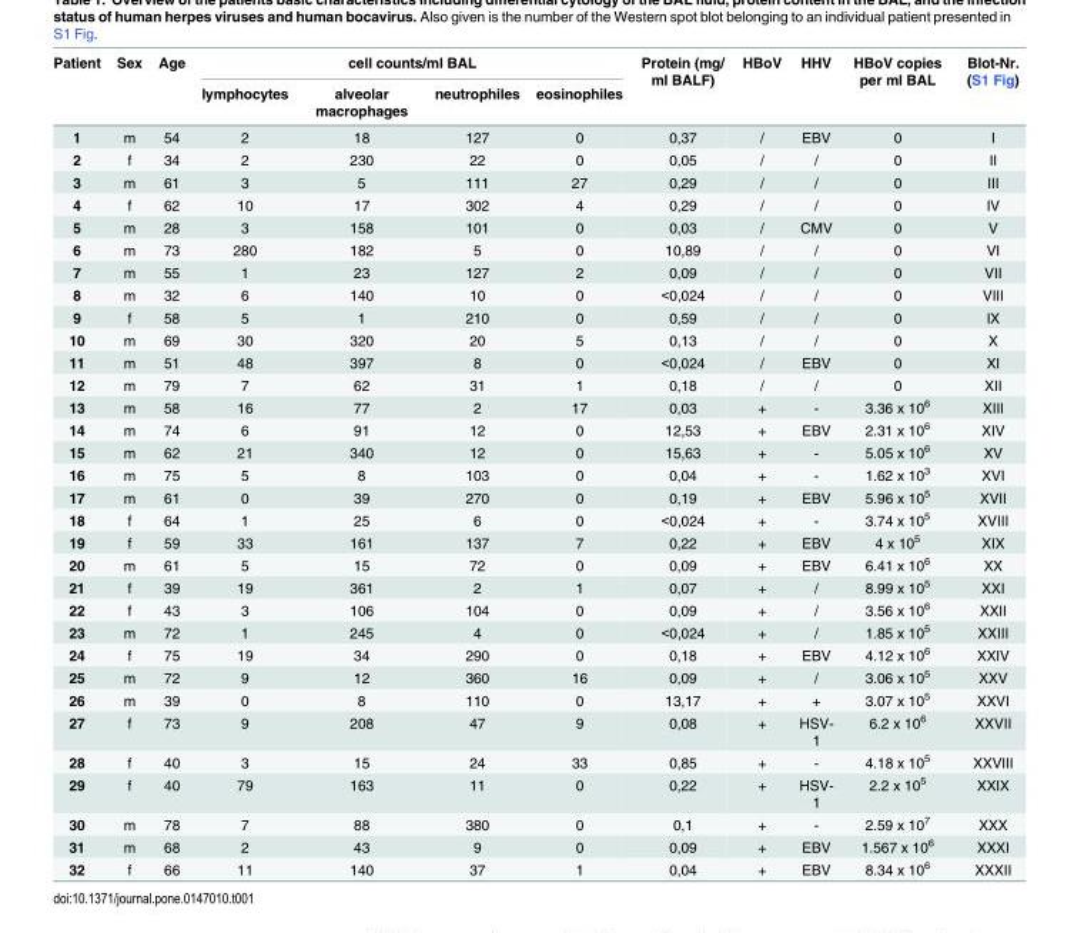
<table><thead><tr><td rowspan="2">Patient</td><td rowspan="2">Sex</td><td rowspan="2">Age</td><td colspan="4">cell counts/ml BAL</td><td rowspan="2">Protein (mg/ ml BALF)</td><td rowspan="2">HBoV</td><td rowspan="2">HHV</td><td rowspan="2">HBoV copies per ml BAL</td><td rowspan="2">Blot-Nr. (S1 Fig)</td></tr><tr><td>lymphocytes</td><td>alveolar macrophages</td><td>neutrophiles</td><td>eosinophiles</td></tr></thead><tbody><tr><td>1</td><td>m</td><td>54</td><td>2</td><td>18</td><td>127</td><td>0</td><td>0,37</td><td>/</td><td>EBV</td><td>0</td><td>I</td></tr><tr><td>2</td><td>f</td><td>34</td><td>2</td><td>230</td><td>22</td><td>0</td><td>0,05</td><td>/</td><td>/</td><td>0</td><td>II</td></tr><tr><td>3</td><td>m</td><td>61</td><td>3</td><td>5</td><td>111</td><td>27</td><td>0,29</td><td>/</td><td>/</td><td>0</td><td>III</td></tr><tr><td>4</td><td>f</td><td>62</td><td>10</td><td>17</td><td>302</td><td>4</td><td>0,29</td><td>/</td><td>/</td><td>0</td><td>IV</td></tr><tr><td>5</td><td>m</td><td>28</td><td>3</td><td>158</td><td>101</td><td>0</td><td>0,03</td><td>/</td><td>CMV</td><td>0</td><td>V</td></tr><tr><td>6</td><td>m</td><td>73</td><td>280</td><td>182</td><td>5</td><td>0</td><td>10,89</td><td>/</td><td>/</td><td>0</td><td>VI</td></tr><tr><td>7</td><td>m</td><td>55</td><td>1</td><td>23</td><td>127</td><td>2</td><td>0,09</td><td>/</td><td>/</td><td>0</td><td>VII</td></tr><tr><td>8</td><td>m</td><td>32</td><td>6</td><td>140</td><td>10</td><td>0</td><td>&lt;0,024</td><td>/</td><td>/</td><td>0</td><td>VIII</td></tr><tr><td>9</td><td>f</td><td>58</td><td>5</td><td>1</td><td>210</td><td>0</td><td>0,59</td><td>/</td><td>/</td><td>0</td><td>IX</td></tr><tr><td>10</td><td>m</td><td>69</td><td>30</td><td>320</td><td>20</td><td>5</td><td>0,13</td><td>/</td><td>/</td><td>0</td><td>X</td></tr><tr><td>11</td><td>m</td><td>51</td><td>48</td><td>397</td><td>8</td><td>0</td><td>&lt;0,024</td><td>/</td><td>EBV</td><td>0</td><td>XI</td></tr><tr><td>12</td><td>m</td><td>79</td><td>7</td><td>62</td><td>31</td><td>1</td><td>0,18</td><td>/</td><td>/</td><td>0</td><td>XII</td></tr><tr><td>13</td><td>m</td><td>58</td><td>16</td><td>77</td><td>2</td><td>17</td><td>0,03</td><td>+</td><td>-</td><td>3.36 x 10<sup>6</sup></td><td>XIII</td></tr><tr><td>14</td><td>m</td><td>74</td><td>6</td><td>91</td><td>12</td><td>0</td><td>12,53</td><td>+</td><td>EBV</td><td>2.31 x 10<sup>6</sup></td><td>XIV</td></tr><tr><td>15</td><td>m</td><td>62</td><td>21</td><td>340</td><td>12</td><td>0</td><td>15,63</td><td>+</td><td>-</td><td>5.05 x 10<sup>6</sup></td><td>XV</td></tr><tr><td>16</td><td>m</td><td>75</td><td>5</td><td>8</td><td>103</td><td>0</td><td>0,04</td><td>+</td><td>-</td><td>1.62 x 10<sup>3</sup></td><td>XVI</td></tr><tr><td>17</td><td>m</td><td>61</td><td>0</td><td>39</td><td>270</td><td>0</td><td>0,19</td><td>+</td><td>EBV</td><td>5.96 x 10<sup>5</sup></td><td>XVII</td></tr><tr><td>18</td><td>f</td><td>64</td><td>1</td><td>25</td><td>6</td><td>0</td><td>&lt;0,024</td><td>+</td><td>-</td><td>3.74 x 10<sup>5</sup></td><td>XVIII</td></tr><tr><td>19</td><td>f</td><td>59</td><td>33</td><td>161</td><td>137</td><td>7</td><td>0,22</td><td>+</td><td>EBV</td><td>4 x 10<sup>5</sup></td><td>XIX</td></tr><tr><td>20</td><td>m</td><td>61</td><td>5</td><td>15</td><td>72</td><td>0</td><td>0,09</td><td>+</td><td>EBV</td><td>6.41 x 10<sup>6</sup></td><td>XX</td></tr><tr><td>21</td><td>f</td><td>39</td><td>19</td><td>361</td><td>2</td><td>1</td><td>0,07</td><td>+</td><td>/</td><td>8.99 x 10<sup>5</sup></td><td>XXI</td></tr><tr><td>22</td><td>f</td><td>43</td><td>3</td><td>106</td><td>104</td><td>0</td><td>0,09</td><td>+</td><td>/</td><td>3.56 x 10<sup>6</sup></td><td>XXII</td></tr><tr><td>23</td><td>m</td><td>72</td><td>1</td><td>245</td><td>4</td><td>0</td><td>&lt;0,024</td><td>+</td><td>/</td><td>1.85 x 10<sup>5</sup></td><td>XXIII</td></tr><tr><td>24</td><td>f</td><td>75</td><td>19</td><td>34</td><td>290</td><td>0</td><td>0,18</td><td>+</td><td>EBV</td><td>4.12 x 10<sup>6</sup></td><td>XXIV</td></tr><tr><td>25</td><td>m</td><td>72</td><td>9</td><td>12</td><td>360</td><td>16</td><td>0,09</td><td>+</td><td>/</td><td>3.06 x 10<sup>5</sup></td><td>XXV</td></tr><tr><td>26</td><td>m</td><td>39</td><td>0</td><td>8</td><td>110</td><td>0</td><td>13,17</td><td>+</td><td>+</td><td>3.07 x 10<sup>5</sup></td><td>XXVI</td></tr><tr><td>27</td><td>f</td><td>73</td><td>9</td><td>208</td><td>47</td><td>9</td><td>0,08</td><td>+</td><td>HSV- 1</td><td>6.2 x 10<sup>6</sup></td><td>XXVII</td></tr><tr><td>28</td><td>f</td><td>40</td><td>3</td><td>15</td><td>24</td><td>33</td><td>0,85</td><td>+</td><td>-</td><td>4.18 x 10<sup>5</sup></td><td>XXVIII</td></tr><tr><td>29</td><td>f</td><td>40</td><td>79</td><td>163</td><td>11</td><td>0</td><td>0,22</td><td>+</td><td>HSV- 1</td><td>2.2 x 10<sup>5</sup></td><td>XXIX</td></tr><tr><td>30</td><td>m</td><td>78</td><td>7</td><td>88</td><td>380</td><td>0</td><td>0,1</td><td>+</td><td>-</td><td>2.59 x 10<sup>7</sup></td><td>XXX</td></tr><tr><td>31</td><td>m</td><td>68</td><td>2</td><td>43</td><td>9</td><td>0</td><td>0,09</td><td>+</td><td>EBV</td><td>1.567 x 10<sup>6</sup></td><td>XXXI</td></tr><tr><td>32</td><td>f</td><td>66</td><td>11</td><td>140</td><td>37</td><td>1</td><td>0,04</td><td>+</td><td>EBV</td><td>8.34 x 10<sup>6</sup></td><td>XXXII</td></tr></tbody></table>